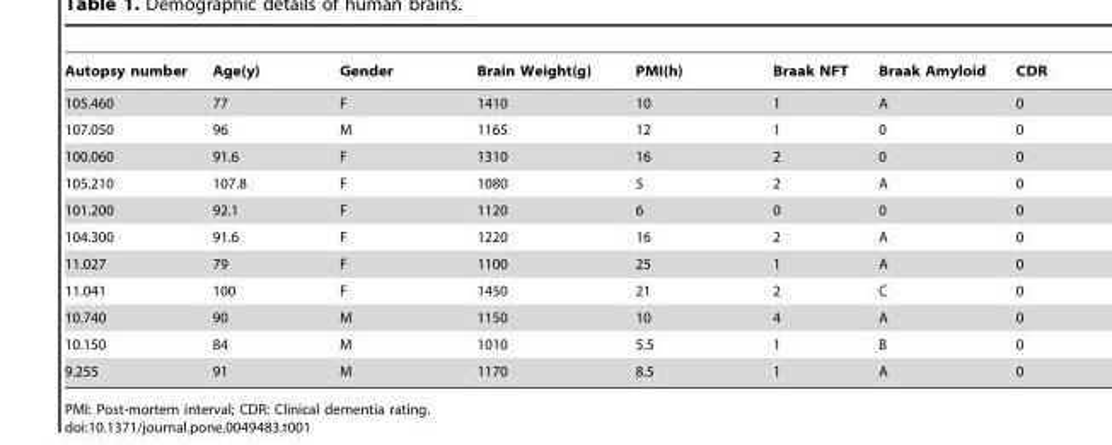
<table><thead><tr><td>Autopsy number</td><td>Age(y)</td><td>Gender</td><td>Brain Weight(g)</td><td>PMI(h)</td><td>Braak NFT</td><td>Braak Amyloid</td><td>CDR</td></tr></thead><tbody><tr><td>105.460</td><td>77</td><td>F</td><td>1410</td><td>10</td><td>1</td><td>A</td><td>0</td></tr><tr><td>107.050</td><td>96</td><td>M</td><td>1165</td><td>12</td><td>1</td><td>0</td><td>0</td></tr><tr><td>100.060</td><td>91.6</td><td>F</td><td>1310</td><td>16</td><td>2</td><td>0</td><td>0</td></tr><tr><td>105.210</td><td>107.8</td><td>F</td><td>1080</td><td>5</td><td>2</td><td>A</td><td>0</td></tr><tr><td>101.200</td><td>92.1</td><td>F</td><td>1120</td><td>6</td><td>0</td><td>0</td><td>0</td></tr><tr><td>104.300</td><td>91.6</td><td>F</td><td>1220</td><td>16</td><td>2</td><td>A</td><td>0</td></tr><tr><td>11.027</td><td>79</td><td>F</td><td>1100</td><td>25</td><td>1</td><td>A</td><td>0</td></tr><tr><td>11.041</td><td>100</td><td>F</td><td>1450</td><td>21</td><td>2</td><td>C</td><td>0</td></tr><tr><td>10.740</td><td>90</td><td>M</td><td>1150</td><td>10</td><td>4</td><td>A</td><td>0</td></tr><tr><td>10.150</td><td>84</td><td>M</td><td>1010</td><td>5.5</td><td>1</td><td>B</td><td>0</td></tr><tr><td>9.255</td><td>91</td><td>M</td><td>1170</td><td>8.5</td><td>1</td><td>A</td><td>0</td></tr></tbody></table>